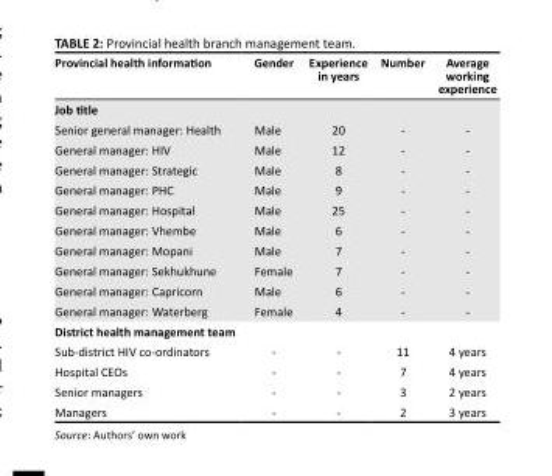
<table><thead><tr><td>Provincial health information</td><td>Gender</td><td>Experience in years</td><td>Number</td><td>Average working experience</td></tr></thead><tbody><tr><td colspan="5">Job title</td></tr><tr><td>Senior general manager: Health</td><td>Male</td><td>20</td><td>-</td><td>-</td></tr><tr><td>General manager: HIV</td><td>Male</td><td>12</td><td>-</td><td>-</td></tr><tr><td>General manager: Strategic</td><td>Male</td><td>8</td><td>-</td><td>-</td></tr><tr><td>General manager: PHC</td><td>Male</td><td>9</td><td>-</td><td>-</td></tr><tr><td>General manager: Hospital</td><td>Male</td><td>25</td><td>-</td><td>-</td></tr><tr><td>General manager: Vhembe</td><td>Male</td><td>6</td><td>-</td><td>-</td></tr><tr><td>General manager: Mopani</td><td>Male</td><td>7</td><td>-</td><td>-</td></tr><tr><td>General manager: Sekhukhune</td><td>Female</td><td>7</td><td>-</td><td>-</td></tr><tr><td>General manager: Capricorn</td><td>Male</td><td>6</td><td>-</td><td>-</td></tr><tr><td>General manager: Waterberg</td><td>Female</td><td>4</td><td>-</td><td>-</td></tr><tr><td colspan="5">District health management team</td></tr><tr><td>Sub-district HIV co-ordinators</td><td>-</td><td>-</td><td>11</td><td>4 years</td></tr><tr><td>Hospital CEOs</td><td>-</td><td>-</td><td>7</td><td>4 years</td></tr><tr><td>Senior managers</td><td>-</td><td>-</td><td>3</td><td>2 years</td></tr><tr><td>Managers</td><td>-</td><td>-</td><td>2</td><td>3 years</td></tr></tbody></table>